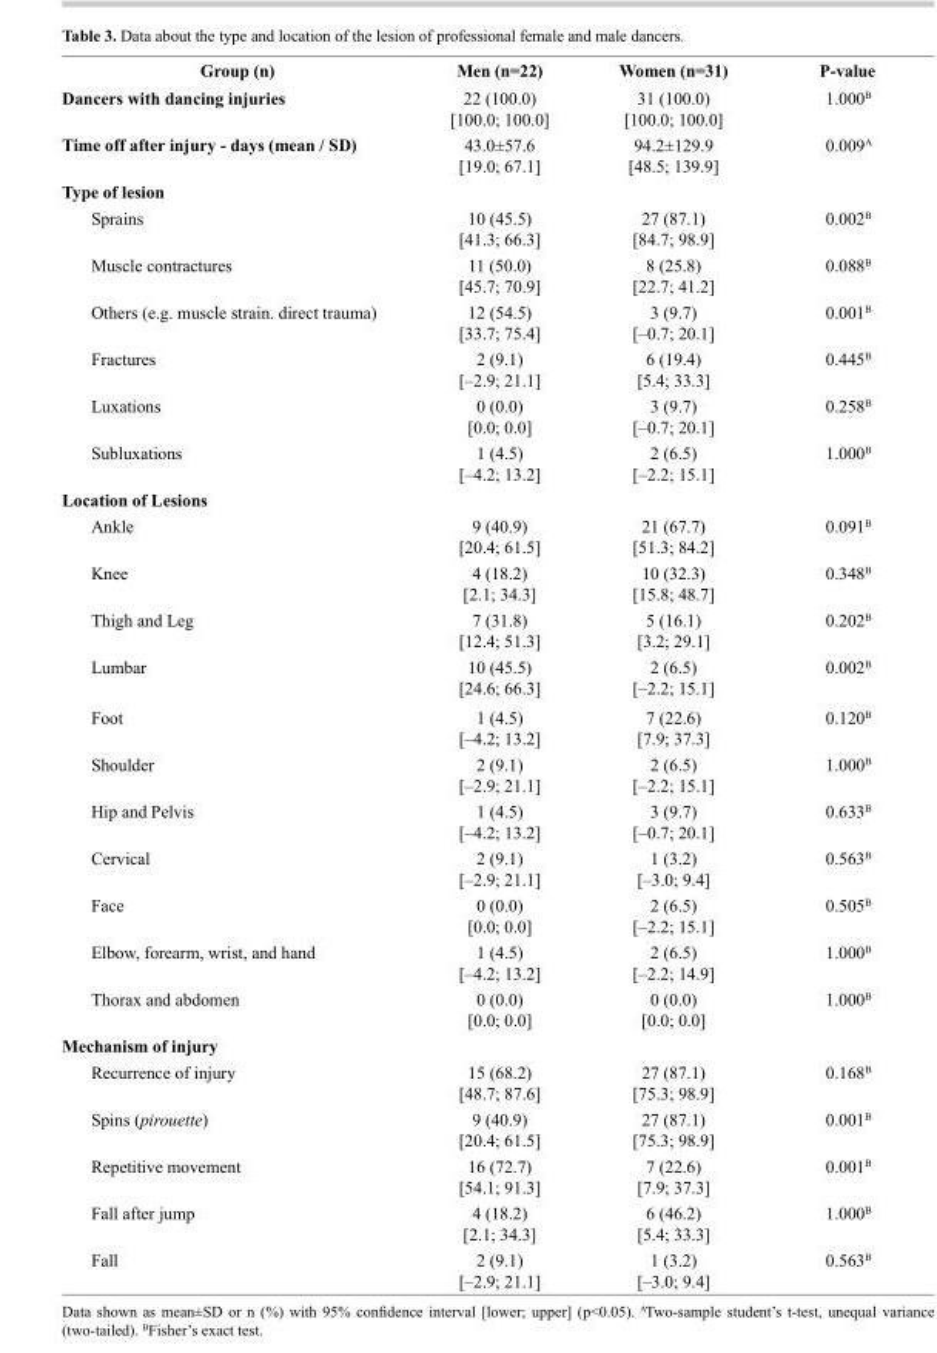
<table><thead><tr><td>Group (n)</td><td>Men (n=22)</td><td>Women (n=31)</td><td>P-value</td></tr></thead><tbody><tr><td>Dancers with dancing injuries</td><td>22 (100.0) [100.0; 100.0]</td><td>31 (100.0) [100.0; 100.0]</td><td>1.000<sup>B</sup></td></tr><tr><td>Time off after injury - days (mean / SD)</td><td>43.0±57.6 [19.0; 67.1]</td><td>94.2±129.9 [48.5; 139.9]</td><td>0.009<sup>A</sup></td></tr><tr><td>Type of lesion Sprains</td><td>10 (45.5) [41.3; 66.3]</td><td>27 (87.1) [84.7; 98.9]</td><td>0.002<sup>B</sup></td></tr><tr><td>Muscle contractures</td><td>11 (50.0) [45.7; 70.9]</td><td>8 (25.8) [22.7; 41.2]</td><td>0.088<sup>B</sup></td></tr><tr><td>Others (e.g. muscle strain. direct trauma)</td><td>12 (54.5) [33.7; 75.4]</td><td>3 (9.7) [–0.7; 20.1]</td><td>0.001<sup>B</sup></td></tr><tr><td>Fractures</td><td>2 (9.1) [–2.9; 21.1]</td><td>6 (19.4) [5.4; 33.3]</td><td>0.445<sup>B</sup></td></tr><tr><td>Luxations</td><td>0 (0.0) [0.0; 0.0]</td><td>3 (9.7) [–0.7; 20.1]</td><td>0.258<sup>B</sup></td></tr><tr><td>Subluxations</td><td>1 (4.5) [–4.2; 13.2]</td><td>2 (6.5) [–2.2; 15.1]</td><td>1.000<sup>B</sup></td></tr><tr><td>Location of Lesions Ankle</td><td>9 (40.9) [20.4; 61.5]</td><td>21 (67.7) [51.3; 84.2]</td><td>0.091<sup>B</sup></td></tr><tr><td>Knee</td><td>4 (18.2) [2.1; 34.3]</td><td>10 (32.3) [15.8; 48.7]</td><td>0.348<sup>B</sup></td></tr><tr><td>Thigh and Leg</td><td>7 (31.8) [12.4; 51.3]</td><td>5 (16.1) [3.2; 29.1]</td><td>0.202<sup>B</sup></td></tr><tr><td>Lumbar</td><td>10 (45.5) [24.6; 66.3]</td><td>2 (6.5) [–2.2; 15.1]</td><td>0.002<sup>B</sup></td></tr><tr><td>Foot</td><td>1 (4.5) [–4.2; 13.2]</td><td>7 (22.6) [7.9; 37.3]</td><td>0.120<sup>B</sup></td></tr><tr><td>Shoulder</td><td>2 (9.1) [–2.9; 21.1]</td><td>2 (6.5) [–2.2; 15.1]</td><td>1.000<sup>B</sup></td></tr><tr><td>Hip and Pelvis</td><td>1 (4.5) [–4.2; 13.2]</td><td>3 (9.7) [–0.7; 20.1]</td><td>0.633<sup>B</sup></td></tr><tr><td>Cervical</td><td>2 (9.1) [–2.9; 21.1]</td><td>1 (3.2) [–3.0; 9.4]</td><td>0.563<sup>B</sup></td></tr><tr><td>Face</td><td>0 (0.0) [0.0; 0.0]</td><td>2 (6.5) [–2.2; 15.1]</td><td>0.505<sup>B</sup></td></tr><tr><td>Elbow, forearm, wrist, and hand</td><td>1 (4.5) [–4.2; 13.2]</td><td>2 (6.5) [–2.2; 14.9]</td><td>1.000<sup>B</sup></td></tr><tr><td>Thorax and abdomen</td><td>0 (0.0) [0.0; 0.0]</td><td>0 (0.0) [0.0; 0.0]</td><td>1.000<sup>B</sup></td></tr><tr><td>Mechanism of injury Recurrence of injury</td><td>15 (68.2) [48.7; 87.6]</td><td>27 (87.1) [75.3; 98.9]</td><td>0.168<sup>B</sup></td></tr><tr><td>Spins (pirouette)</td><td>9 (40.9) [20.4; 61.5]</td><td>27 (87.1) [75.3; 98.9]</td><td>0.001<sup>B</sup></td></tr><tr><td>Repetitive movement</td><td>16 (72.7) [54.1; 91.3]</td><td>7 (22.6) [7.9; 37.3]</td><td>0.001<sup>B</sup></td></tr><tr><td>Fall after jump</td><td>4 (18.2) [2.1; 34.3]</td><td>6 (46.2) [5.4; 33.3]</td><td>1.000<sup>B</sup></td></tr><tr><td>Fall</td><td>2 (9.1) [–2.9; 21.1]</td><td>1 (3.2) [–3.0; 9.4]</td><td>0.563<sup>B</sup></td></tr></tbody></table>